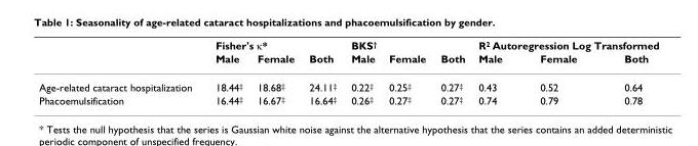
<table><thead><tr><td rowspan="2"></td><td colspan="3">Fisher&#x27;s κ*</td><td colspan="3">BKS<sup>†</sup></td><td colspan="3">R<sup>2</sup> Autoregression Log Transformed</td></tr><tr><td>Male</td><td>Female</td><td>Both</td><td>Male</td><td>Female</td><td>Both</td><td>Male</td><td>Female</td><td>Both</td></tr></thead><tbody><tr><td>Age-related cataract hospitalization</td><td>18.44<sup>‡</sup></td><td>18.68<sup>‡</sup></td><td>24.11<sup>‡</sup></td><td>0.22<sup>‡</sup></td><td>0.25<sup>‡</sup></td><td>0.27<sup>‡</sup></td><td>0.43</td><td>0.52</td><td>0.64</td></tr><tr><td>Phacoemulsification</td><td>16.44<sup>‡</sup></td><td>16.67<sup>‡</sup></td><td>16.64<sup>‡</sup></td><td>0.26<sup>‡</sup></td><td>0.27<sup>‡</sup></td><td>0.27<sup>‡</sup></td><td>0.74</td><td>0.79</td><td>0.78</td></tr></tbody></table>